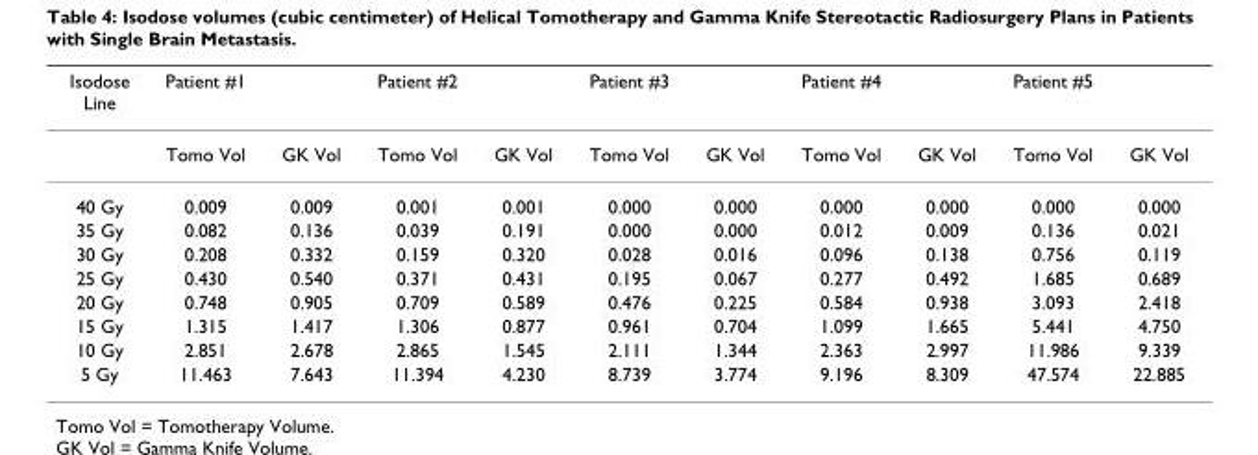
<table><thead><tr><td>Isodose Line</td><td>Patient #1</td><td></td><td>Patient #2</td><td></td><td>Patient #3</td><td></td><td>Patient #4</td><td></td><td>Patient #5</td><td></td></tr></thead><tbody><tr><td></td><td>Tomo Vol</td><td>GK Vol</td><td>Tomo Vol</td><td>GK Vol</td><td>Tomo Vol</td><td>GK Vol</td><td>Tomo Vol</td><td>GK Vol</td><td>Tomo Vol</td><td>GK Vol</td></tr><tr><td>40 Gy</td><td>0.009</td><td>0.009</td><td>0.001</td><td>0.001</td><td>0.000</td><td>0.000</td><td>0.000</td><td>0.000</td><td>0.000</td><td>0.000</td></tr><tr><td>35 Gy</td><td>0.082</td><td>0.136</td><td>0.039</td><td>0.191</td><td>0.000</td><td>0.000</td><td>0.012</td><td>0.009</td><td>0.136</td><td>0.021</td></tr><tr><td>30 Gy</td><td>0.208</td><td>0.332</td><td>0.159</td><td>0.320</td><td>0.028</td><td>0.016</td><td>0.096</td><td>0.138</td><td>0.756</td><td>0.119</td></tr><tr><td>25 Gy</td><td>0.430</td><td>0.540</td><td>0.371</td><td>0.431</td><td>0.195</td><td>0.067</td><td>0.277</td><td>0.492</td><td>1.685</td><td>0.689</td></tr><tr><td>20 Gy</td><td>0.748</td><td>0.905</td><td>0.709</td><td>0.589</td><td>0.476</td><td>0.225</td><td>0.584</td><td>0.938</td><td>3.093</td><td>2.418</td></tr><tr><td>15 Gy</td><td>1.315</td><td>1.417</td><td>1.306</td><td>0.877</td><td>0.961</td><td>0.704</td><td>1.099</td><td>1.665</td><td>5.441</td><td>4.750</td></tr><tr><td>10 Gy</td><td>2.851</td><td>2.678</td><td>2.865</td><td>1.545</td><td>2.111</td><td>1.344</td><td>2.363</td><td>2.997</td><td>11.986</td><td>9.339</td></tr><tr><td>5 Gy</td><td>11.463</td><td>7.643</td><td>11.394</td><td>4.230</td><td>8.739</td><td>3.774</td><td>9.196</td><td>8.309</td><td>47.574</td><td>22.885</td></tr></tbody></table>